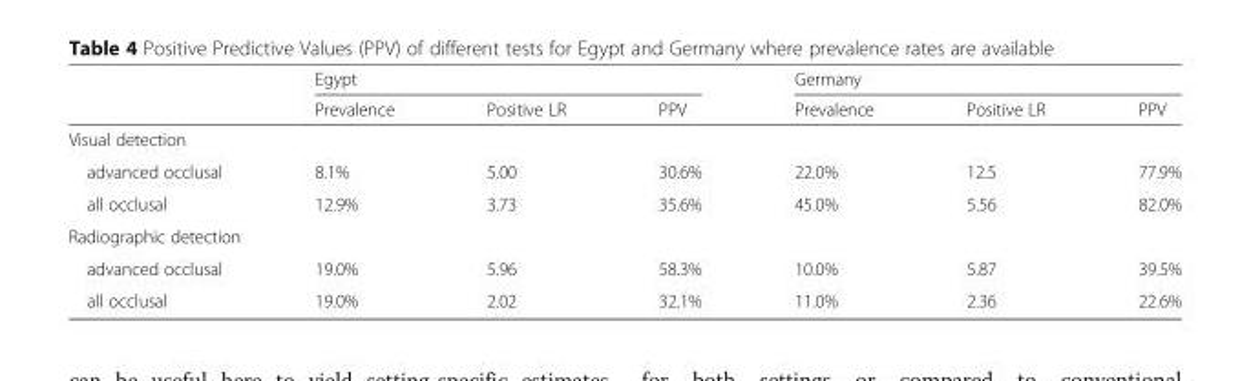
<table><thead><tr><td rowspan="2"></td><td colspan="3">Egypt</td><td colspan="3">Germany</td></tr><tr><td>Prevalence</td><td>Positive LR</td><td>PPV</td><td>Prevalence</td><td>Positive LR</td><td>PPV</td></tr></thead><tbody><tr><td colspan="7">Visual detection</td></tr><tr><td>advanced occlusal</td><td>8.1%</td><td>5.00</td><td>30.6%</td><td>22.0%</td><td>12.5</td><td>77.9%</td></tr><tr><td>all occlusal</td><td>12.9%</td><td>3.73</td><td>35.6%</td><td>45.0%</td><td>5.56</td><td>82.0%</td></tr><tr><td colspan="7">Radiographic detection</td></tr><tr><td>advanced occlusal</td><td>19.0%</td><td>5.96</td><td>58.3%</td><td>10.0%</td><td>5.87</td><td>39.5%</td></tr><tr><td>all occlusal</td><td>19.0%</td><td>2.02</td><td>32.1%</td><td>11.0%</td><td>2.36</td><td>22.6%</td></tr></tbody></table>